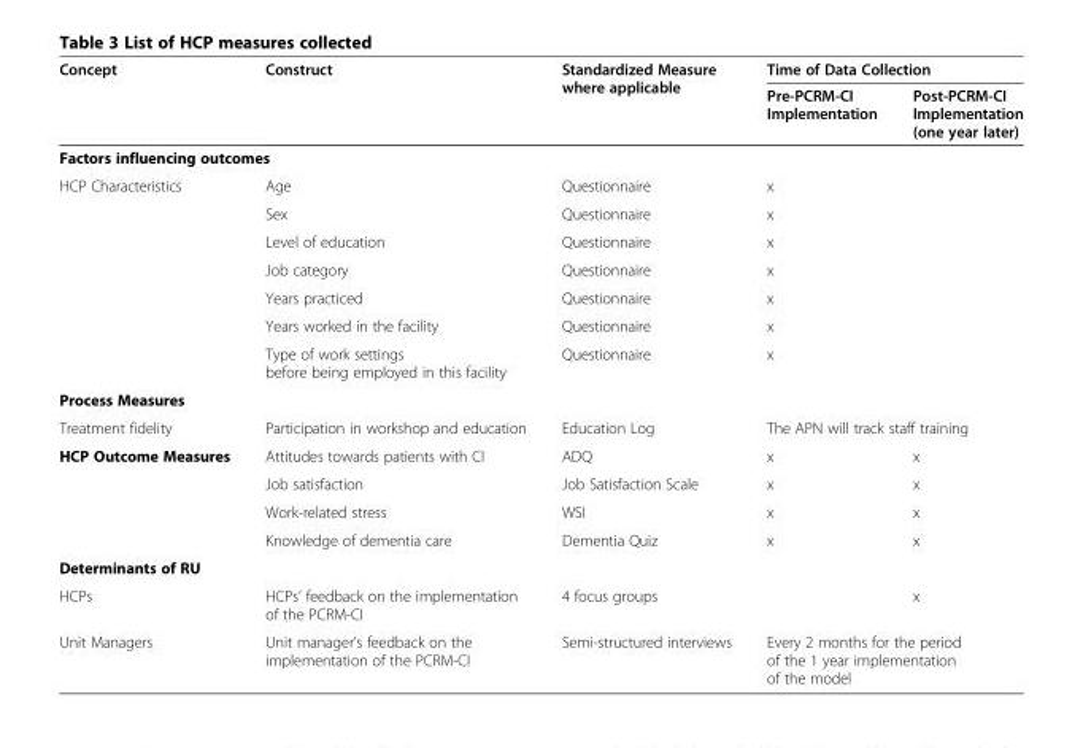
<table><thead><tr><td rowspan="2">Concept</td><td rowspan="2">Construct</td><td rowspan="2">Standardized Measure where applicable</td><td colspan="2">Time of Data Collection</td></tr><tr><td>Pre-PCRM-CI Implementation</td><td>Post-PCRM-CI Implementation (one year later)</td></tr></thead><tbody><tr><td colspan="5">Factors influencing outcomes</td></tr><tr><td rowspan="7">HCP Characteristics</td><td>Age</td><td>Questionnaire</td><td>x</td><td></td></tr><tr><td>Sex</td><td>Questionnaire</td><td>x</td><td></td></tr><tr><td>Level of education</td><td>Questionnaire</td><td>x</td><td></td></tr><tr><td>Job category</td><td>Questionnaire</td><td>x</td><td></td></tr><tr><td>Years practiced</td><td>Questionnaire</td><td>x</td><td></td></tr><tr><td>Years worked in the facility</td><td>Questionnaire</td><td>x</td><td></td></tr><tr><td>Type of work settings before being employed in this facility</td><td>Questionnaire</td><td>x</td><td></td></tr><tr><td colspan="5">Process Measures</td></tr><tr><td>Treatment fidelity</td><td>Participation in workshop and education</td><td>Education Log</td><td colspan="2">The APN will track staff training</td></tr><tr><td rowspan="4">HCP Outcome Measures</td><td>Attitudes towards patients with CI</td><td>ADQ</td><td>x</td><td>x</td></tr><tr><td>Job satisfaction</td><td>Job Satisfaction Scale</td><td>x</td><td>x</td></tr><tr><td>Work-related stress</td><td>WSI</td><td>x</td><td>x</td></tr><tr><td>Knowledge of dementia care</td><td>Dementia Quiz</td><td>x</td><td>x</td></tr><tr><td colspan="5">Determinants of RU</td></tr><tr><td>HCPs</td><td>HCPs’ feedback on the implementation of the PCRM-CI</td><td>4 focus groups</td><td></td><td>x</td></tr><tr><td>Unit Managers</td><td>Unit manager’s feedback on the implementation of the PCRM-CI</td><td>Semi-structured interviews</td><td colspan="2">Every 2 months for the period of the 1 year implementation of the model</td></tr></tbody></table>